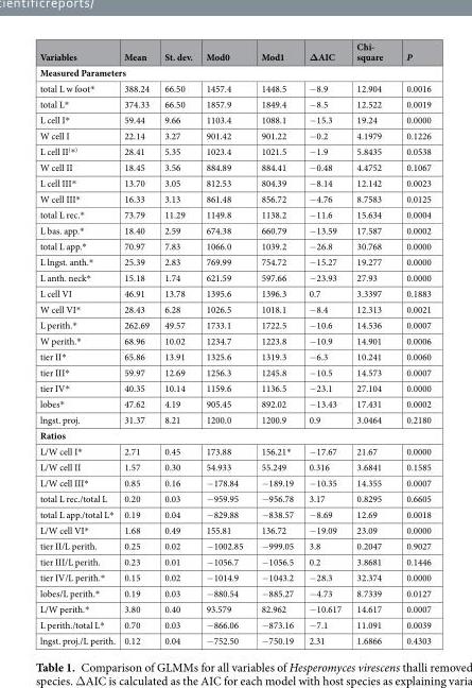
<table><thead><tr><td>Variables</td><td>Mean</td><td>St. dev.</td><td>Mod0</td><td>Mod1</td><td>ΔAIC</td><td>Chi- square</td><td>P</td></tr></thead><tbody><tr><td colspan="8">Measured Parameters</td></tr><tr><td>total L w foot*</td><td>388.24</td><td>66.50</td><td>1457.4</td><td>1448.5</td><td>−8.9</td><td>12.904</td><td>0.0016</td></tr><tr><td>total L*</td><td>374.33</td><td>66.50</td><td>1857.9</td><td>1849.4</td><td>−8.5</td><td>12.522</td><td>0.0019</td></tr><tr><td>L cell I*</td><td>59.44</td><td>9.66</td><td>1103.4</td><td>1088.1</td><td>−15.3</td><td>19.24</td><td>0.0000</td></tr><tr><td>W cell I</td><td>22.14</td><td>3.27</td><td>901.42</td><td>901.22</td><td>−0.2</td><td>4.1979</td><td>0.1226</td></tr><tr><td>L cell II<sup>(</sup>*<sup>)</sup></td><td>28.41</td><td>5.35</td><td>1023.4</td><td>1021.5</td><td>−1.9</td><td>5.8435</td><td>0.0538</td></tr><tr><td>W cell II</td><td>18.45</td><td>3.56</td><td>884.89</td><td>884.41</td><td>−0.48</td><td>4.4752</td><td>0.1067</td></tr><tr><td>L cell III*</td><td>13.70</td><td>3.05</td><td>812.53</td><td>804.39</td><td>−8.14</td><td>12.142</td><td>0.0023</td></tr><tr><td>W cell III*</td><td>16.33</td><td>3.13</td><td>861.48</td><td>856.72</td><td>−4.76</td><td>8.7583</td><td>0.0125</td></tr><tr><td>total L rec.*</td><td>73.79</td><td>11.29</td><td>1149.8</td><td>1138.2</td><td>−11.6</td><td>15.634</td><td>0.0004</td></tr><tr><td>L bas. app.*</td><td>18.40</td><td>2.59</td><td>674.38</td><td>660.79</td><td>−13.59</td><td>17.587</td><td>0.0002</td></tr><tr><td>total L app.*</td><td>70.97</td><td>7.83</td><td>1066.0</td><td>1039.2</td><td>−26.8</td><td>30.768</td><td>0.0000</td></tr><tr><td>L lngst. anth.*</td><td>25.39</td><td>2.83</td><td>769.99</td><td>754.72</td><td>−15.27</td><td>19.277</td><td>0.0000</td></tr><tr><td>L anth. neck*</td><td>15.18</td><td>1.74</td><td>621.59</td><td>597.66</td><td>−23.93</td><td>27.93</td><td>0.0000</td></tr><tr><td>L cell VI</td><td>46.91</td><td>13.78</td><td>1395.6</td><td>1396.3</td><td>0.7</td><td>3.3397</td><td>0.1883</td></tr><tr><td>W cell VI*</td><td>28.43</td><td>6.28</td><td>1026.5</td><td>1018.1</td><td>−8.4</td><td>12.313</td><td>0.0021</td></tr><tr><td>L perith.*</td><td>262.69</td><td>49.57</td><td>1733.1</td><td>1722.5</td><td>−10.6</td><td>14.536</td><td>0.0007</td></tr><tr><td>W perith.*</td><td>68.96</td><td>10.02</td><td>1234.7</td><td>1223.8</td><td>−10.9</td><td>14.901</td><td>0.0006</td></tr><tr><td>tier II*</td><td>65.86</td><td>13.91</td><td>1325.6</td><td>1319.3</td><td>−6.3</td><td>10.241</td><td>0.0060</td></tr><tr><td>tier III*</td><td>59.97</td><td>12.69</td><td>1256.3</td><td>1245.8</td><td>−10.5</td><td>14.573</td><td>0.0007</td></tr><tr><td>tier IV*</td><td>40.35</td><td>10.14</td><td>1159.6</td><td>1136.5</td><td>−23.1</td><td>27.104</td><td>0.0000</td></tr><tr><td>lobes*</td><td>47.62</td><td>4.19</td><td>905.45</td><td>892.02</td><td>−13.43</td><td>17.431</td><td>0.0002</td></tr><tr><td>lngst. proj.</td><td>31.37</td><td>8.21</td><td>1200.0</td><td>1200.9</td><td>0.9</td><td>3.0464</td><td>0.2180</td></tr><tr><td colspan="8">Ratios</td></tr><tr><td>L/W cell I*</td><td>2.71</td><td>0.45</td><td>173.88</td><td>156.21*</td><td>−17.67</td><td>21.67</td><td>0.0000</td></tr><tr><td>L/W cell II</td><td>1.57</td><td>0.30</td><td>54.933</td><td>55.249</td><td>0.316</td><td>3.6841</td><td>0.1585</td></tr><tr><td>L/W cell III*</td><td>0.85</td><td>0.16</td><td>−178.84</td><td>−189.19</td><td>−10.35</td><td>14.355</td><td>0.0007</td></tr><tr><td>total L rec./total L</td><td>0.20</td><td>0.03</td><td>−959.95</td><td>−956.78</td><td>3.17</td><td>0.8295</td><td>0.6605</td></tr><tr><td>total L app./total L*</td><td>0.19</td><td>0.04</td><td>−829.88</td><td>−838.57</td><td>−8.69</td><td>12.69</td><td>0.0018</td></tr><tr><td>L/W cell VI*</td><td>1.68</td><td>0.49</td><td>155.81</td><td>136.72</td><td>−19.09</td><td>23.09</td><td>0.0000</td></tr><tr><td>tier II/L perith.</td><td>0.25</td><td>0.02</td><td>−1002.85</td><td>−999.05</td><td>3.8</td><td>0.2047</td><td>0.9027</td></tr><tr><td>tier III/L perith.</td><td>0.23</td><td>0.01</td><td>−1056.7</td><td>−1056.5</td><td>0.2</td><td>3.8681</td><td>0.1446</td></tr><tr><td>tier IV/L perith.*</td><td>0.15</td><td>0.02</td><td>−1014.9</td><td>−1043.2</td><td>−28.3</td><td>32.374</td><td>0.0000</td></tr><tr><td>lobes/L perith.*</td><td>0.19</td><td>0.03</td><td>−880.54</td><td>−885.27</td><td>−4.73</td><td>8.7339</td><td>0.0127</td></tr><tr><td>L/W perith.*</td><td>3.80</td><td>0.40</td><td>93.579</td><td>82.962</td><td>−10.617</td><td>14.617</td><td>0.0007</td></tr><tr><td>L perith./total L*</td><td>0.70</td><td>0.03</td><td>−866.06</td><td>−873.16</td><td>−7.1</td><td>11.091</td><td>0.0039</td></tr><tr><td>lngst. proj./L perith.</td><td>0.12</td><td>0.04</td><td>−752.50</td><td>−750.19</td><td>2.31</td><td>1.6866</td><td>0.4303</td></tr></tbody></table>